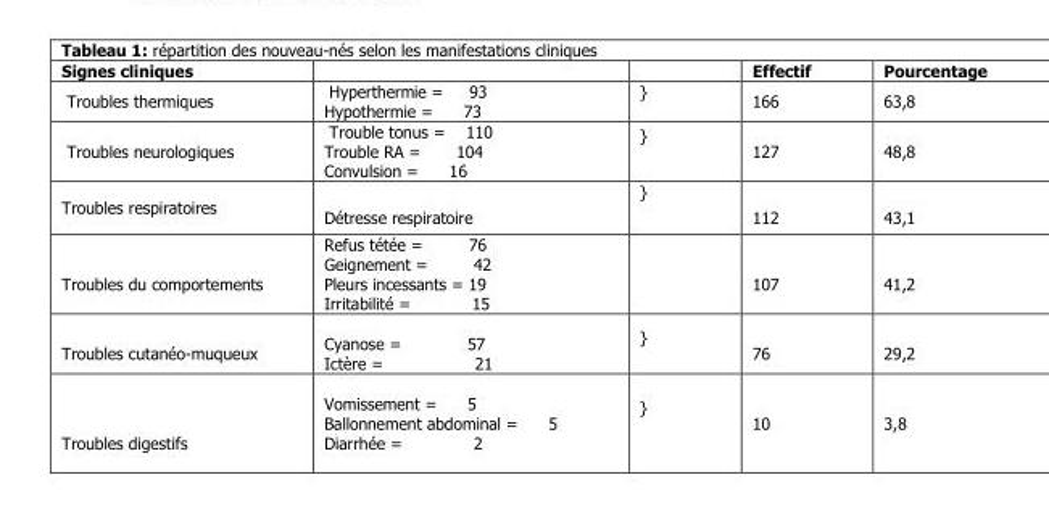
<table><thead><tr><td>Signes cliniques</td><td></td><td></td><td>Effectif</td><td>Pourcentage</td></tr></thead><tbody><tr><td>Troubles thermiques</td><td>Hyperthermie = 93 Hypothermie = 73</td><td>}</td><td>166</td><td>63,8</td></tr><tr><td>Troubles neurologiques</td><td>Trouble tonus = 110 Trouble RA = 104 Convulsion = 16</td><td>}</td><td>127</td><td>48,8</td></tr><tr><td>Troubles respiratoires</td><td>Détresse respiratoire</td><td>}</td><td>112</td><td>43,1</td></tr><tr><td>Troubles du comportements</td><td>Refus tétée = 76 Geignement = 42 Pleurs incessants = 19 Irritabilité = 15</td><td></td><td>107</td><td>41,2</td></tr><tr><td>Troubles cutanéo-muqueux</td><td>Cyanose = 57 Ictère = 21</td><td>}</td><td>76</td><td>29,2</td></tr><tr><td>Troubles digestifs</td><td>Vomissement = 5 Ballonnement abdominal = 5 Diarrhée = 2</td><td>}</td><td>10</td><td>3,8</td></tr></tbody></table>